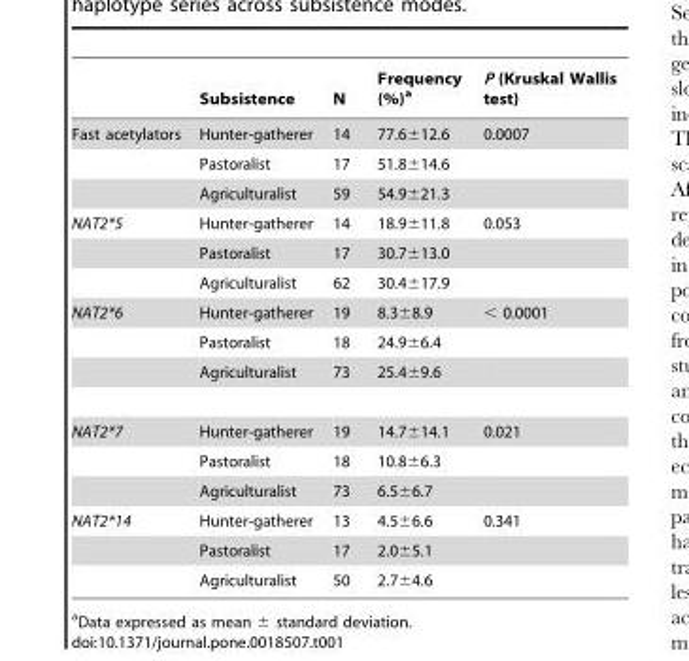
<table><thead><tr><td></td><td>Subsistence</td><td>N</td><td>Frequency (%)<sup>a</sup></td><td>P (Kruskal Wallis test)</td></tr></thead><tbody><tr><td rowspan="3">Fast acetylators</td><td>Hunter-gatherer</td><td>14</td><td>77.6±12.6</td><td>0.0007</td></tr><tr><td>Pastoralist</td><td>17</td><td>51.8±14.6</td><td></td></tr><tr><td>Agriculturalist</td><td>59</td><td>54.9±21.3</td><td></td></tr><tr><td rowspan="3">NAT2*5</td><td>Hunter-gatherer</td><td>14</td><td>18.9±11.8</td><td>0.053</td></tr><tr><td>Pastoralist</td><td>17</td><td>30.7±13.0</td><td></td></tr><tr><td>Agriculturalist</td><td>62</td><td>30.4±17.9</td><td></td></tr><tr><td rowspan="3">NAT2*6</td><td>Hunter-gatherer</td><td>19</td><td>8.3±8.9</td><td>&lt; 0.0001</td></tr><tr><td>Pastoralist</td><td>18</td><td>24.9±6.4</td><td></td></tr><tr><td>Agriculturalist</td><td>73</td><td>25.4±9.6</td><td></td></tr><tr><td rowspan="3">NAT2*7</td><td>Hunter-gatherer</td><td>19</td><td>14.7±14.1</td><td>0.021</td></tr><tr><td>Pastoralist</td><td>18</td><td>10.8±6.3</td><td></td></tr><tr><td>Agriculturalist</td><td>73</td><td>6.5±6.7</td><td></td></tr><tr><td rowspan="3">NAT2*14</td><td>Hunter-gatherer</td><td>13</td><td>4.5±6.6</td><td>0.341</td></tr><tr><td>Pastoralist</td><td>17</td><td>2.0±5.1</td><td></td></tr><tr><td>Agriculturalist</td><td>50</td><td>2.7±4.6</td><td></td></tr></tbody></table>